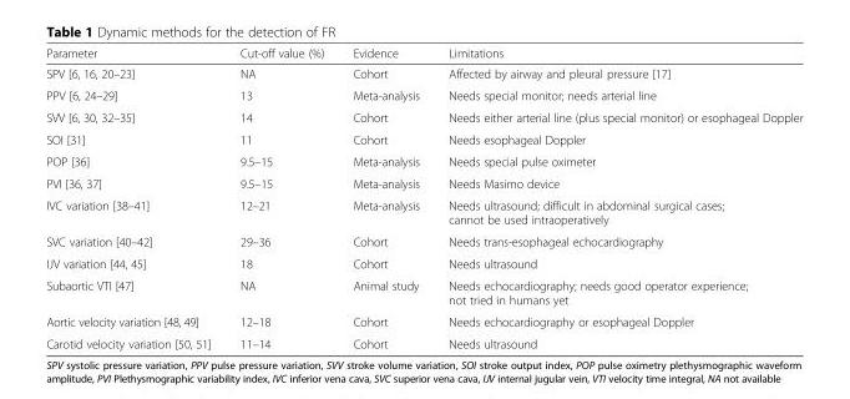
<table><thead><tr><td>Parameter</td><td>Cut-off value (%)</td><td>Evidence</td><td>Limitations</td></tr></thead><tbody><tr><td>SPV [6, 16, 20–23]</td><td>NA</td><td>Cohort</td><td>Affected by airway and pleural pressure [17]</td></tr><tr><td>PPV [6, 24–29]</td><td>13</td><td>Meta-analysis</td><td>Needs special monitor; needs arterial line</td></tr><tr><td>SVV [6, 30, 32–35]</td><td>14</td><td>Cohort</td><td>Needs either arterial line (plus special monitor) or esophageal Doppler</td></tr><tr><td>SOI [31]</td><td>11</td><td>Cohort</td><td>Needs esophageal Doppler</td></tr><tr><td>POP [36]</td><td>9.5–15</td><td>Meta-analysis</td><td>Needs special pulse oximeter</td></tr><tr><td>PVI [36, 37]</td><td>9.5–15</td><td>Meta-analysis</td><td>Needs Masimo device</td></tr><tr><td>IVC variation [38–41]</td><td>12–21</td><td>Meta-analysis</td><td>Needs ultrasound; difficult in abdominal surgical cases; cannot be used intraoperatively</td></tr><tr><td>SVC variation [40–42]</td><td>29–36</td><td>Cohort</td><td>Needs trans-esophageal echocardiography</td></tr><tr><td>IJV variation [44, 45]</td><td>18</td><td>Cohort</td><td>Needs ultrasound</td></tr><tr><td>Subaortic VTI [47]</td><td>NA</td><td>Animal study</td><td>Needs echocardiography; needs good operator experience; not tried in humans yet</td></tr><tr><td>Aortic velocity variation [48, 49]</td><td>12–18</td><td>Cohort</td><td>Needs echocardiography or esophageal Doppler</td></tr><tr><td>Carotid velocity variation [50, 51]</td><td>11–14</td><td>Cohort</td><td>Needs ultrasound</td></tr></tbody></table>